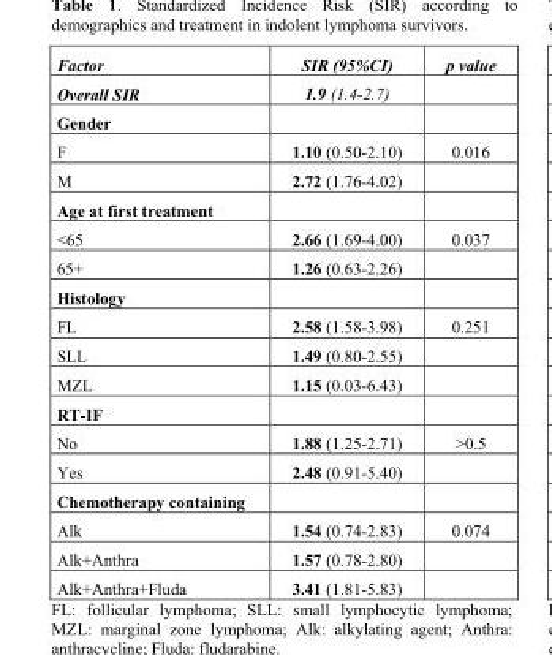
<table><thead><tr><td>Factor</td><td>SIR (95%CI)</td><td>p value</td></tr></thead><tbody><tr><td>Overall SIR</td><td>1.9 (1.4-2.7)</td><td></td></tr><tr><td colspan="3">Gender</td></tr><tr><td>F</td><td>1.10 (0.50-2.10)</td><td>0.016</td></tr><tr><td>M</td><td>2.72 (1.76-4.02)</td><td></td></tr><tr><td colspan="3">Age at first treatment</td></tr><tr><td>&lt;65</td><td>2.66 (1.69-4.00)</td><td>0.037</td></tr><tr><td>65+</td><td>1.26 (0.63-2.26)</td><td></td></tr><tr><td colspan="3">Histology</td></tr><tr><td>FL</td><td>2.58 (1.58-3.98)</td><td>0.251</td></tr><tr><td>SLL</td><td>1.49 (0.80-2.55)</td><td></td></tr><tr><td>MZL</td><td>1.15 (0.03-6.43)</td><td></td></tr><tr><td colspan="3">RT-IF</td></tr><tr><td>No</td><td>1.88 (1.25-2.71)</td><td>&gt;0.5</td></tr><tr><td>Yes</td><td>2.48 (0.91-5.40)</td><td></td></tr><tr><td colspan="3">Chemotherapy containing</td></tr><tr><td>Alk</td><td>1.54 (0.74-2.83)</td><td>0.074</td></tr><tr><td>Alk+Anthra</td><td>1.57 (0.78-2.80)</td><td></td></tr><tr><td>Alk+Anthra+Fluda</td><td>3.41 (1.81-5.83)</td><td></td></tr></tbody></table>